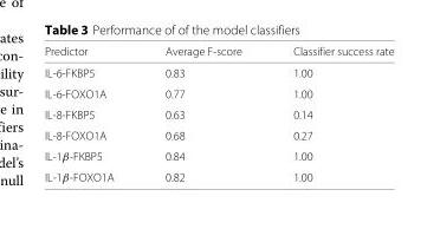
<table><thead><tr><td>Predictor</td><td>Average F-score</td><td>Classifier success rate</td></tr></thead><tbody><tr><td>IL-6-FKBP5</td><td>0.83</td><td>1.00</td></tr><tr><td>IL-6-FOXO1A</td><td>0.77</td><td>1.00</td></tr><tr><td>IL-8-FKBP5</td><td>0.63</td><td>0.14</td></tr><tr><td>IL-8-FOXO1A</td><td>0.68</td><td>0.27</td></tr><tr><td>IL-1β-FKBP5</td><td>0.84</td><td>1.00</td></tr><tr><td>IL-1β-FOXO1A</td><td>0.82</td><td>1.00</td></tr></tbody></table>